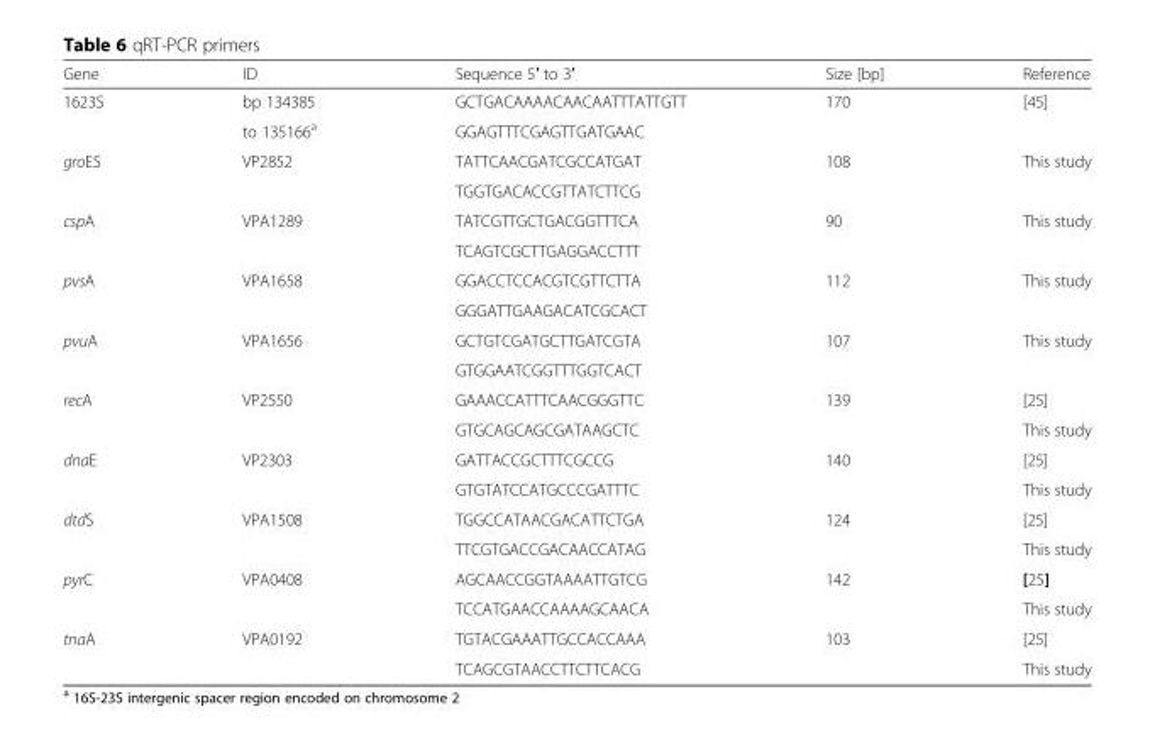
<table><thead><tr><td>Gene</td><td>ID</td><td>Sequence 5′ to 3′</td><td>Size [bp]</td><td>Reference</td></tr></thead><tbody><tr><td rowspan="2">1623S</td><td>bp 134385</td><td>GCTGACAAAACAACAATTTATTGTT</td><td rowspan="2">170</td><td rowspan="2">[45]</td></tr><tr><td>to 135166<sup>a</sup></td><td>GGAGTTTCGAGTTGATGAAC</td></tr><tr><td rowspan="2">groES</td><td rowspan="2">VP2852</td><td>TATTCAACGATCGCCATGAT</td><td rowspan="2">108</td><td rowspan="2">This study</td></tr><tr><td>TGGTGACACCGTTATCTTCG</td></tr><tr><td rowspan="2">cspA</td><td rowspan="2">VPA1289</td><td>TATCGTTGCTGACGGTTTCA</td><td rowspan="2">90</td><td rowspan="2">This study</td></tr><tr><td>TCAGTCGCTTGAGGACCTTT</td></tr><tr><td rowspan="2">pvsA</td><td rowspan="2">VPA1658</td><td>GGACCTCCACGTCGTTCTTA</td><td rowspan="2">112</td><td rowspan="2">This study</td></tr><tr><td>GGGATTGAAGACATCGCACT</td></tr><tr><td rowspan="2">pvuA</td><td rowspan="2">VPA1656</td><td>GCTGTCGATGCTTGATCGTA</td><td rowspan="2">107</td><td rowspan="2">This study</td></tr><tr><td>GTGGAATCGGTTTGGTCACT</td></tr><tr><td rowspan="2">recA</td><td rowspan="2">VP2550</td><td>GAAACCATTTCAACGGGTTC</td><td rowspan="2">139</td><td>[25]</td></tr><tr><td>GTGCAGCAGCGATAAGCTC</td><td>This study</td></tr><tr><td rowspan="2">dnaE</td><td rowspan="2">VP2303</td><td>GATTACCGCTTTCGCCG</td><td rowspan="2">140</td><td>[25]</td></tr><tr><td>GTGTATCCATGCCCGATTTC</td><td>This study</td></tr><tr><td rowspan="2">dtdS</td><td rowspan="2">VPA1508</td><td>TGGCCATAACGACATTCTGA</td><td rowspan="2">124</td><td>[25]</td></tr><tr><td>TTCGTGACCGACAACCATAG</td><td>This study</td></tr><tr><td rowspan="2">pyrC</td><td rowspan="2">VPA0408</td><td>AGCAACCGGTAAAATTGTCG</td><td rowspan="2">142</td><td>[25]</td></tr><tr><td>TCCATGAACCAAAAGCAACA</td><td>This study</td></tr><tr><td rowspan="2">tnaA</td><td rowspan="2">VPA0192</td><td>TGTACGAAATTGCCACCAAA</td><td rowspan="2">103</td><td>[25]</td></tr><tr><td>TCAGCGTAACCTTCTTCACG</td><td>This study</td></tr></tbody></table>